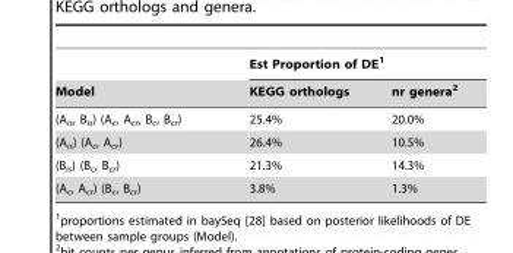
<table><thead><tr><td rowspan="2">Model</td><td colspan="2">Est Proportion of DE<sup>1</sup></td></tr><tr><td>KEGG orthologs</td><td>nr genera<sup>2</sup></td></tr></thead><tbody><tr><td>(A<sub>is</sub>, B<sub>is</sub>) (A<sub>c</sub>, A<sub>cr</sub>, B<sub>c</sub>, B<sub>cr</sub>)</td><td>25.4%</td><td>20.0%</td></tr><tr><td>(A<sub>is</sub>) (A<sub>c</sub>, A<sub>cr</sub>)</td><td>26.4%</td><td>10.5%</td></tr><tr><td>(B<sub>is</sub>) (B<sub>c</sub>, B<sub>cr</sub>)</td><td>21.3%</td><td>14.3%</td></tr><tr><td>(A<sub>c</sub>, A<sub>cr</sub>) (B<sub>c</sub>, B<sub>cr</sub>)</td><td>3.8%</td><td>1.3%</td></tr></tbody></table>